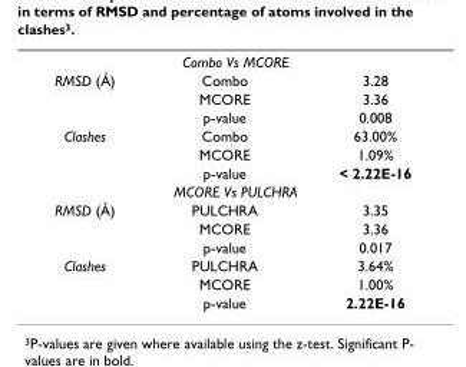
<table><tbody><tr><td colspan="3">Combo Vs MCORE</td></tr><tr><td rowspan="3">RMSD (Å)</td><td>Combo</td><td>3.28</td></tr><tr><td>MCORE</td><td>3.36</td></tr><tr><td>p-value</td><td>0.008</td></tr><tr><td rowspan="3">Clashes</td><td>Combo</td><td>63.00%</td></tr><tr><td>MCORE</td><td>1.09%</td></tr><tr><td>p-value</td><td>&lt; 2.22E-16</td></tr><tr><td colspan="3">MCORE Vs PULCHRA</td></tr><tr><td rowspan="3">RMSD (Å)</td><td>PULCHRA</td><td>3.35</td></tr><tr><td>MCORE</td><td>3.36</td></tr><tr><td>p-value</td><td>0.017</td></tr><tr><td rowspan="3">Clashes</td><td>PULCHRA</td><td>3.64%</td></tr><tr><td>MCORE</td><td>1.00%</td></tr><tr><td>p-value</td><td>2.22E-16</td></tr></tbody></table>